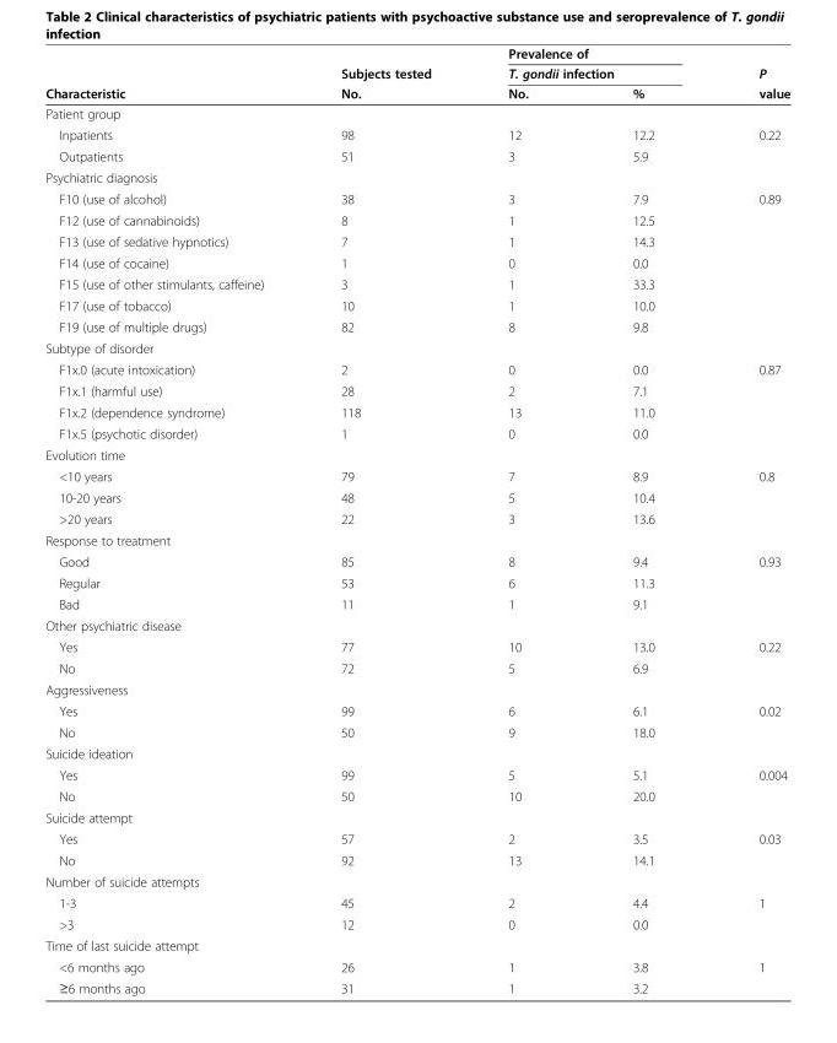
<table><thead><tr><td rowspan="3">Characteristic</td><td rowspan="3">Subjects tested No.</td><td rowspan="2" colspan="2">Prevalence of T. gondii infection</td><td rowspan="3">P value</td></tr><tr></tr><tr><td>No.</td><td>%</td></tr></thead><tbody><tr><td colspan="5">Patient group</td></tr><tr><td>Inpatients</td><td>98</td><td>12</td><td>12.2</td><td>0.22</td></tr><tr><td>Outpatients</td><td>51</td><td>3</td><td>5.9</td><td></td></tr><tr><td colspan="5">Psychiatric diagnosis</td></tr><tr><td>F10 (use of alcohol)</td><td>38</td><td>3</td><td>7.9</td><td>0.89</td></tr><tr><td>F12 (use of cannabinoids)</td><td>8</td><td>1</td><td>12.5</td><td></td></tr><tr><td>F13 (use of sedative hypnotics)</td><td>7</td><td>1</td><td>14.3</td><td></td></tr><tr><td>F14 (use of cocaine)</td><td>1</td><td>0</td><td>0.0</td><td></td></tr><tr><td>F15 (use of other stimulants, caffeine)</td><td>3</td><td>1</td><td>33.3</td><td></td></tr><tr><td>F17 (use of tobacco)</td><td>10</td><td>1</td><td>10.0</td><td></td></tr><tr><td>F19 (use of multiple drugs)</td><td>82</td><td>8</td><td>9.8</td><td></td></tr><tr><td colspan="5">Subtype of disorder</td></tr><tr><td>F1x.0 (acute intoxication)</td><td>2</td><td>0</td><td>0.0</td><td>0.87</td></tr><tr><td>F1x.1 (harmful use)</td><td>28</td><td>2</td><td>7.1</td><td></td></tr><tr><td>F1x.2 (dependence syndrome)</td><td>118</td><td>13</td><td>11.0</td><td></td></tr><tr><td>F1x.5 (psychotic disorder)</td><td>1</td><td>0</td><td>0.0</td><td></td></tr><tr><td colspan="5">Evolution time</td></tr><tr><td>&lt;10 years</td><td>79</td><td>7</td><td>8.9</td><td>0.8</td></tr><tr><td>10-20 years</td><td>48</td><td>5</td><td>10.4</td><td></td></tr><tr><td>&gt;20 years</td><td>22</td><td>3</td><td>13.6</td><td></td></tr><tr><td colspan="5">Response to treatment</td></tr><tr><td>Good</td><td>85</td><td>8</td><td>9.4</td><td>0.93</td></tr><tr><td>Regular</td><td>53</td><td>6</td><td>11.3</td><td></td></tr><tr><td>Bad</td><td>11</td><td>1</td><td>9.1</td><td></td></tr><tr><td colspan="5">Other psychiatric disease</td></tr><tr><td>Yes</td><td>77</td><td>10</td><td>13.0</td><td>0.22</td></tr><tr><td>No</td><td>72</td><td>5</td><td>6.9</td><td></td></tr><tr><td colspan="5">Aggressiveness</td></tr><tr><td>Yes</td><td>99</td><td>6</td><td>6.1</td><td>0.02</td></tr><tr><td>No</td><td>50</td><td>9</td><td>18.0</td><td></td></tr><tr><td colspan="5">Suicide ideation</td></tr><tr><td>Yes</td><td>99</td><td>5</td><td>5.1</td><td>0.004</td></tr><tr><td>No</td><td>50</td><td>10</td><td>20.0</td><td></td></tr><tr><td colspan="5">Suicide attempt</td></tr><tr><td>Yes</td><td>57</td><td>2</td><td>3.5</td><td>0.03</td></tr><tr><td>No</td><td>92</td><td>13</td><td>14.1</td><td></td></tr><tr><td colspan="5">Number of suicide attempts</td></tr><tr><td>1-3</td><td>45</td><td>2</td><td>4.4</td><td>1</td></tr><tr><td>&gt;3</td><td>12</td><td>0</td><td>0.0</td><td></td></tr><tr><td colspan="5">Time of last suicide attempt</td></tr><tr><td>&lt;6 months ago</td><td>26</td><td>1</td><td>3.8</td><td>1</td></tr><tr><td>≥6 months ago</td><td>31</td><td>1</td><td>3.2</td><td></td></tr></tbody></table>